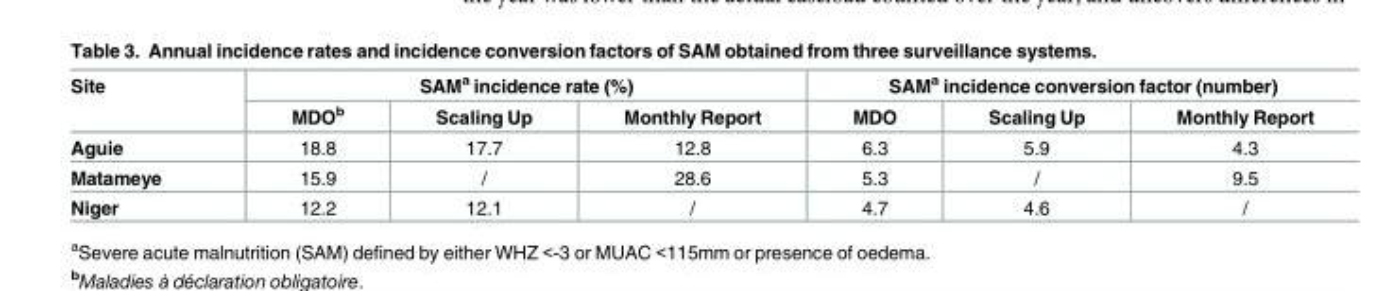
<table><thead><tr><td rowspan="2">Site</td><td colspan="3">SAM<sup>a</sup> incidence rate (%)</td><td colspan="3">SAM<sup>a</sup> incidence conversion factor (number)</td></tr><tr><td>MDO<sup>b</sup></td><td>Scaling Up</td><td>Monthly Report</td><td>MDO</td><td>Scaling Up</td><td>Monthly Report</td></tr></thead><tbody><tr><td>Aguie</td><td>18.8</td><td>17.7</td><td>12.8</td><td>6.3</td><td>5.9</td><td>4.3</td></tr><tr><td>Matameye</td><td>15.9</td><td>/</td><td>28.6</td><td>5.3</td><td>/</td><td>9.5</td></tr><tr><td>Niger</td><td>12.2</td><td>12.1</td><td>/</td><td>4.7</td><td>4.6</td><td>/</td></tr></tbody></table>